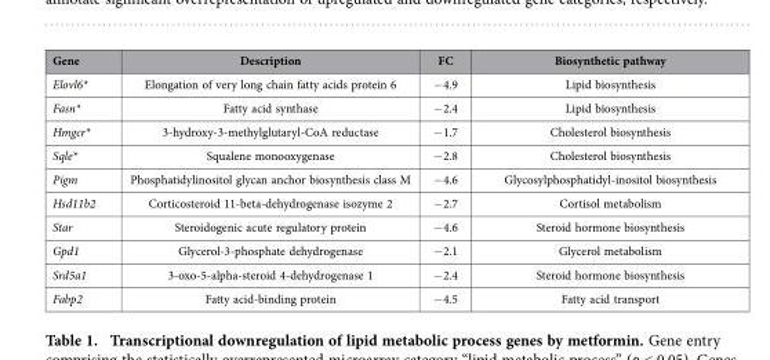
<table><thead><tr><td>Gene</td><td>Description</td><td>FC</td><td>Biosynthetic pathway</td></tr></thead><tbody><tr><td>Elovl6*</td><td>Elongation of very long chain fatty acids protein 6</td><td>− 4.9</td><td>Lipid biosynthesis</td></tr><tr><td>Fasn*</td><td>Fatty acid synthase</td><td>− 2.4</td><td>Lipid biosynthesis</td></tr><tr><td>Hmgcr*</td><td>3-hydroxy-3-methylglutaryl-CoA reductase</td><td>− 1.7</td><td>Cholesterol biosynthesis</td></tr><tr><td>Sqle*</td><td>Squalene monooxygenase</td><td>− 2.8</td><td>Cholesterol biosynthesis</td></tr><tr><td>Pigm</td><td>Phosphatidylinositol glycan anchor biosynthesis class M</td><td>− 4.6</td><td>Glycosylphosphatidyl-inositol biosynthesis</td></tr><tr><td>Hsd11b2</td><td>Corticosteroid 11-beta-dehydrogenase isozyme 2</td><td>− 2.7</td><td>Cortisol metabolism</td></tr><tr><td>Star</td><td>Steroidogenic acute regulatory protein</td><td>− 4.6</td><td>Steroid hormone biosynthesis</td></tr><tr><td>Gpd1</td><td>Glycerol-3-phosphate dehydrogenase</td><td>− 2.1</td><td>Glycerol metabolism</td></tr><tr><td>Srd5a1</td><td>3-oxo-5-alpha-steroid 4-dehydrogenase 1</td><td>− 2.4</td><td>Steroid hormone biosynthesis</td></tr><tr><td>Fabp2</td><td>Fatty acid-binding protein</td><td>− 4.5</td><td>Fatty acid transport</td></tr></tbody></table>